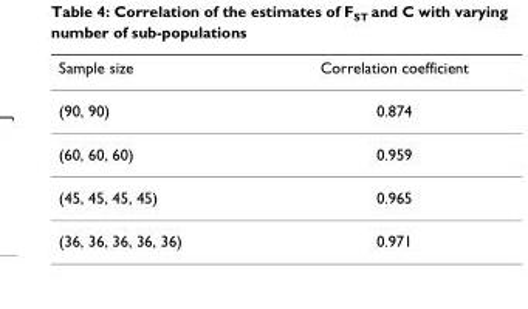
<table><thead><tr><td>Sample size</td><td>Correlation coefficient</td></tr></thead><tbody><tr><td>(90, 90)</td><td>0.874</td></tr><tr><td>(60, 60, 60)</td><td>0.959</td></tr><tr><td>(45, 45, 45, 45)</td><td>0.965</td></tr><tr><td>(36, 36, 36, 36, 36)</td><td>0.971</td></tr></tbody></table>